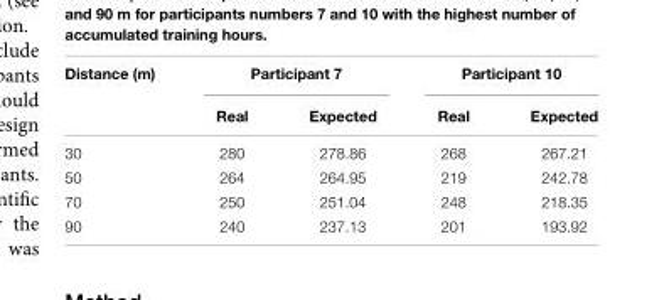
<table><thead><tr><td rowspan="2">Distance (m)</td><td colspan="2">Participant 7</td><td colspan="2">Participant 10</td></tr><tr><td>Real</td><td>Expected</td><td>Real</td><td>Expected</td></tr></thead><tbody><tr><td>30</td><td>280</td><td>278.86</td><td>268</td><td>267.21</td></tr><tr><td>50</td><td>264</td><td>264.95</td><td>219</td><td>242.78</td></tr><tr><td>70</td><td>250</td><td>251.04</td><td>248</td><td>218.35</td></tr><tr><td>90</td><td>240</td><td>237.13</td><td>201</td><td>193.92</td></tr></tbody></table>